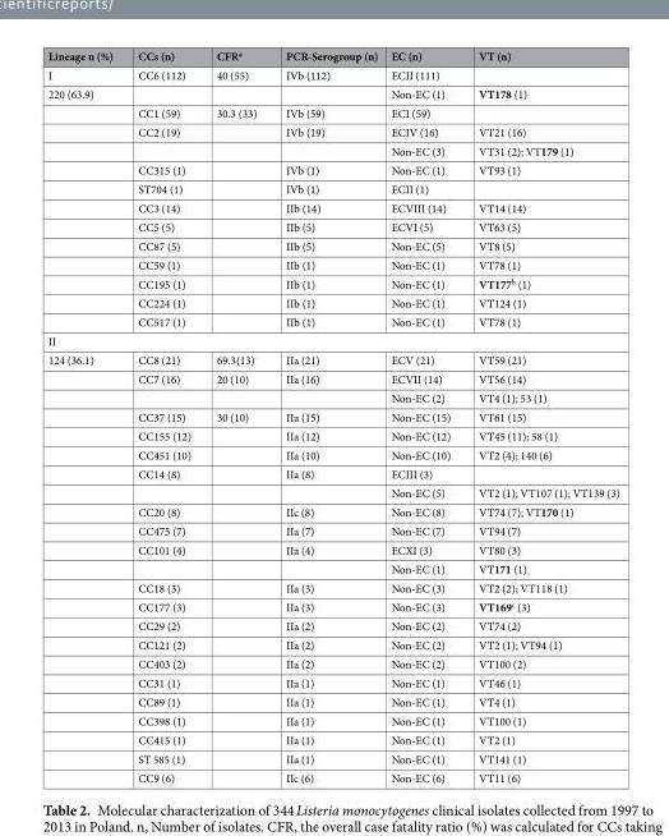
<table><thead><tr><td>Lineage n (%)</td><td>CCs (n)</td><td>CFR<sup>a</sup></td><td>PCR-Serogroup (n)</td><td>EC (n)</td><td>VT (n)</td></tr></thead><tbody><tr><td>I</td><td>CC6 (112)</td><td>40 (55)</td><td>IVb (112)</td><td>ECII (111)</td><td></td></tr><tr><td rowspan="13">220 (63.9)</td><td></td><td></td><td></td><td>Non-EC (1)</td><td>VT178 (1)</td></tr><tr><td>CC1 (59)</td><td>30.3 (33)</td><td>IVb (59)</td><td>ECI (59)</td><td></td></tr><tr><td>CC2 (19)</td><td></td><td>IVb (19)</td><td>ECIV (16)</td><td>VT21 (16)</td></tr><tr><td></td><td></td><td></td><td>Non-EC (3)</td><td>VT31 (2); VT179 (1)</td></tr><tr><td>CC315 (1)</td><td></td><td>IVb (1)</td><td>Non-EC (1)</td><td>VT93 (1)</td></tr><tr><td>ST704 (1)</td><td></td><td>IVb (1)</td><td>ECII (1)</td><td></td></tr><tr><td>CC3 (14)</td><td></td><td>IIb (14)</td><td>ECVIII (14)</td><td>VT14 (14)</td></tr><tr><td>CC5 (5)</td><td></td><td>IIb (5)</td><td>ECVI (5)</td><td>VT63 (5)</td></tr><tr><td>CC87 (5)</td><td></td><td>IIb (5)</td><td>Non-EC (5)</td><td>VT8 (5)</td></tr><tr><td>CC59 (1)</td><td></td><td>IIb (1)</td><td>Non-EC (1)</td><td>VT78 (1)</td></tr><tr><td>CC195 (1)</td><td></td><td>IIb (1)</td><td>Non-EC (1)</td><td>VT177<sup>b</sup> (1)</td></tr><tr><td>CC224 (1)</td><td></td><td>IIb (1)</td><td>Non-EC (1)</td><td>VT124 (1)</td></tr><tr><td>CC517 (1)</td><td></td><td>IIb (1)</td><td>Non-EC (1)</td><td>VT78 (1)</td></tr><tr><td colspan="6">II</td></tr><tr><td rowspan="23">124 (36.1)</td><td>CC8 (21)</td><td>69.3(13)</td><td>IIa (21)</td><td>ECV (21)</td><td>VT59 (21)</td></tr><tr><td>CC7 (16)</td><td>20 (10)</td><td>IIa (16)</td><td>ECVII (14)</td><td>VT56 (14)</td></tr><tr><td></td><td></td><td></td><td>Non-EC (2)</td><td>VT4 (1); 53 (1)</td></tr><tr><td>CC37 (15)</td><td>30 (10)</td><td>IIa (15)</td><td>Non-EC (15)</td><td>VT61 (15)</td></tr><tr><td>CC155 (12)</td><td></td><td>IIa (12)</td><td>Non-EC (12)</td><td>VT45 (11); 58 (1)</td></tr><tr><td>CC451 (10)</td><td></td><td>IIa (10)</td><td>Non-EC (10)</td><td>VT2 (4); 140 (6)</td></tr><tr><td>CC14 (8)</td><td></td><td>IIa (8)</td><td>ECIII (3)</td><td></td></tr><tr><td></td><td></td><td></td><td>Non-EC (5)</td><td>VT2 (1); VT107 (1); VT139 (3)</td></tr><tr><td>CC20 (8)</td><td></td><td>IIc (8)</td><td>Non-EC (8)</td><td>VT74 (7); VT170 (1)</td></tr><tr><td>CC475 (7)</td><td></td><td>IIa (7)</td><td>Non-EC (7)</td><td>VT94 (7)</td></tr><tr><td>CC101 (4)</td><td></td><td>IIa (4)</td><td>ECXI (3)</td><td>VT80 (3)</td></tr><tr><td></td><td></td><td></td><td>Non-EC (1)</td><td>VT171 (1)</td></tr><tr><td>CC18 (3)</td><td></td><td>IIa (3)</td><td>Non-EC (3)</td><td>VT2 (2); VT118 (1)</td></tr><tr><td>CC177 (3)</td><td></td><td>IIa (3)</td><td>Non-EC (3)</td><td>VT169<sup>c</sup> (3)</td></tr><tr><td>CC29 (2)</td><td></td><td>IIa (2)</td><td>Non-EC (2)</td><td>VT74 (2)</td></tr><tr><td>CC121 (2)</td><td></td><td>IIa (2)</td><td>Non-EC (2)</td><td>VT2 (1); VT94 (1)</td></tr><tr><td>CC403 (2)</td><td></td><td>IIa (2)</td><td>Non-EC (2)</td><td>VT100 (2)</td></tr><tr><td>CC31 (1)</td><td></td><td>IIa (1)</td><td>Non-EC (1)</td><td>VT46 (1)</td></tr><tr><td>CC89 (1)</td><td></td><td>IIa (1)</td><td>Non-EC (1)</td><td>VT4 (1)</td></tr><tr><td>CC398 (1)</td><td></td><td>IIa (1)</td><td>Non-EC (1)</td><td>VT100 (1)</td></tr><tr><td>CC415 (1)</td><td></td><td>IIa (1)</td><td>Non-EC (1)</td><td>VT2 (1)</td></tr><tr><td>ST 585 (1)</td><td></td><td>IIa (1)</td><td>Non-EC (1)</td><td>VT141 (1)</td></tr><tr><td>CC9 (6)</td><td></td><td>IIc (6)</td><td>Non-EC (6)</td><td>VT11 (6)</td></tr></tbody></table>